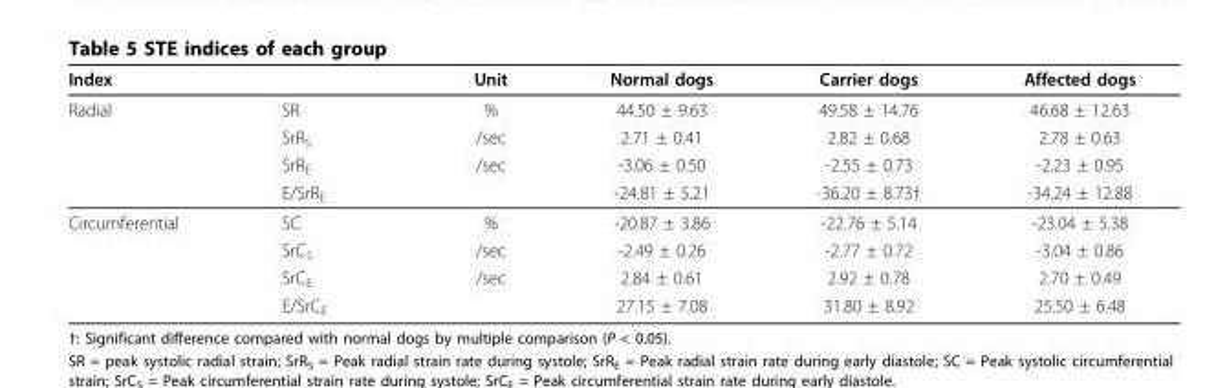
<table><thead><tr><td colspan="2">Index</td><td rowspan="2">Unit %</td><td rowspan="2">Normal dogs 44.50 ± 9.63</td><td rowspan="2">Carrier dogs 49.58 ± 14.76</td><td rowspan="2">Affected dogs 46.68 ± 12.63</td></tr><tr><td>Radial</td><td>SR</td></tr></thead><tbody><tr><td></td><td>SrRS</td><td>/sec</td><td>2.71 ± 0.41</td><td>2.82 ± 0.68</td><td>2.78 ± 0.63</td></tr><tr><td></td><td>SrRE</td><td>/sec</td><td>-3.06 ± 0.50</td><td>-2.55 ± 0.73</td><td>-2.23 ± 0.95</td></tr><tr><td></td><td>E/SrRE</td><td></td><td>-24.81 ± 5.21</td><td>-36.20 ± 8.73†</td><td>-34.24 ± 12.88</td></tr><tr><td rowspan="4">Circumferential</td><td>SC</td><td>%</td><td>-20.87 ± 3.86</td><td>-22.76 ± 5.14</td><td>-23.04 ± 5.38</td></tr><tr><td>SrCS</td><td>/sec</td><td>-2.49 ± 0.26</td><td>-2.77 ± 0.72</td><td>-3.04 ± 0.86</td></tr><tr><td>SrCE</td><td>/sec</td><td>2.84 ± 0.61</td><td>2.92 ± 0.78</td><td>2.70 ± 0.49</td></tr><tr><td>E/SrCE</td><td></td><td>27.15 ± 7.08</td><td>31.80 ± 8.92</td><td>25.50 ± 6.48</td></tr></tbody></table>